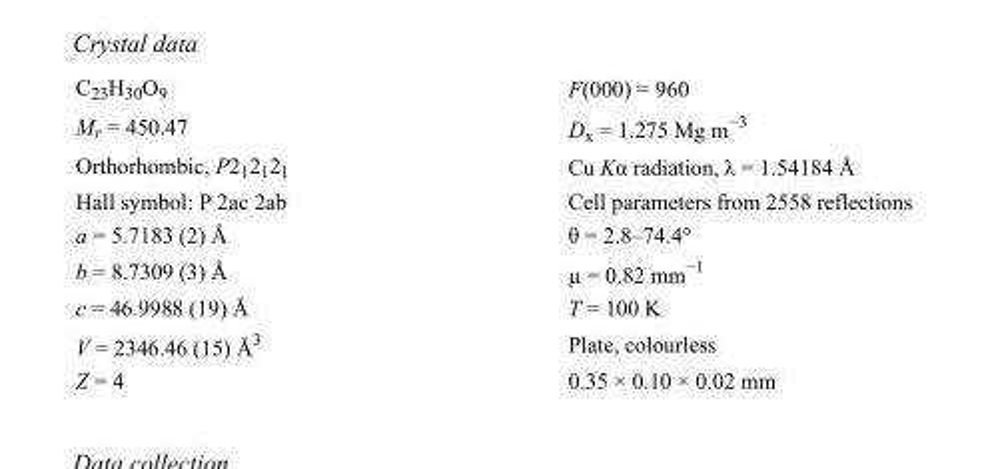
<table><tbody><tr><td>C<sub>23</sub>H<sub>30</sub>O<sub>9</sub></td><td>F(000) = 960</td></tr><tr><td>M<sub>r</sub> = 450.47</td><td>D<sub>x</sub> = 1.275 Mg m<sup>−3</sup></td></tr><tr><td>Orthorhombic, P2<sub>1</sub>2<sub>1</sub>2<sub>1</sub></td><td>Cu Kα radiation, λ = 1.54184 Å</td></tr><tr><td>Hall symbol: P 2ac 2ab</td><td>Cell parameters from 2558 reflections</td></tr><tr><td>a = 5.7183 (2) Å</td><td>θ = 2.8–74.4°</td></tr><tr><td>b = 8.7309 (3) Å</td><td>µ = 0.82 mm<sup>−1</sup></td></tr><tr><td>c = 46.9988 (19) Å</td><td>T = 100 K</td></tr><tr><td>V = 2346.46 (15) Å<sup>3</sup></td><td>Plate, colourless</td></tr><tr><td>Z = 4</td><td>0.35 × 0.10 × 0.02 mm</td></tr></tbody></table>